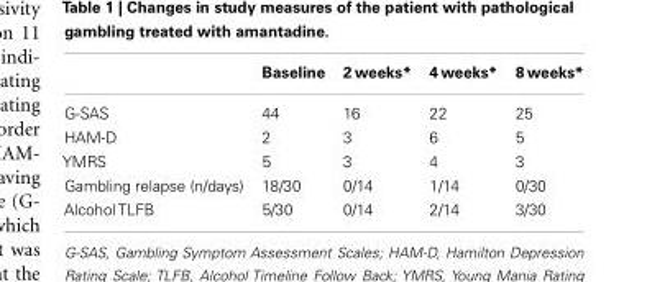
<table><thead><tr><td></td><td>Baseline</td><td>2 weeks*</td><td>4 weeks*</td><td>8 weeks*</td></tr></thead><tbody><tr><td>G-SAS</td><td>44</td><td>16</td><td>22</td><td>25</td></tr><tr><td>HAM-D</td><td>2</td><td>3</td><td>6</td><td>5</td></tr><tr><td>YMRS</td><td>5</td><td>3</td><td>4</td><td>3</td></tr><tr><td>Gambling relapse (n/days)</td><td>18/30</td><td>0/14</td><td>1/14</td><td>0/30</td></tr><tr><td>Alcohol TLFB</td><td>5/30</td><td>0/14</td><td>2/14</td><td>3/30</td></tr></tbody></table>